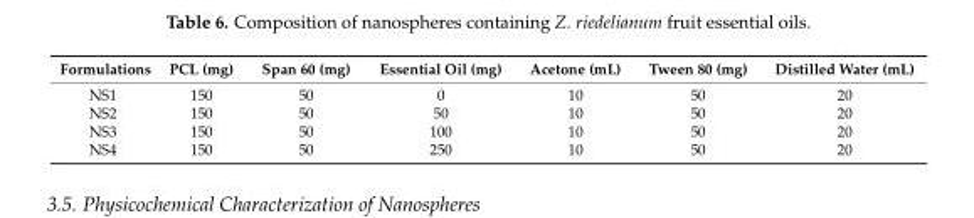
<table><thead><tr><td>Formulations</td><td>PCL (mg)</td><td>Span 60 (mg)</td><td>Essential Oil (mg)</td><td>Acetone (mL)</td><td>Tween 80 (mg)</td><td>Distilled Water (mL)</td></tr></thead><tbody><tr><td>NS1</td><td>150</td><td>50</td><td>0</td><td>10</td><td>50</td><td>20</td></tr><tr><td>NS2</td><td>150</td><td>50</td><td>50</td><td>10</td><td>50</td><td>20</td></tr><tr><td>NS3</td><td>150</td><td>50</td><td>100</td><td>10</td><td>50</td><td>20</td></tr><tr><td>NS4</td><td>150</td><td>50</td><td>250</td><td>10</td><td>50</td><td>20</td></tr></tbody></table>